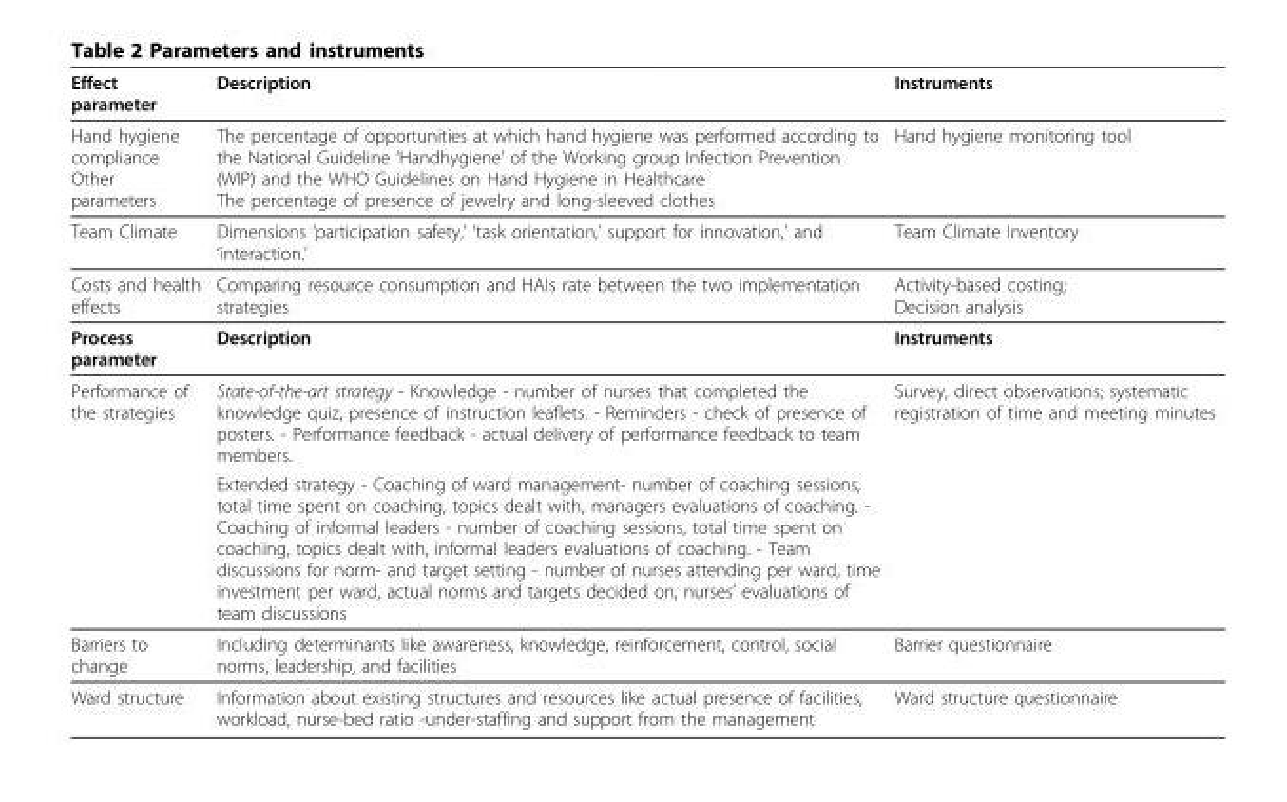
<table><thead><tr><td>Effect parameter</td><td>Description</td><td>Instruments</td></tr></thead><tbody><tr><td>Hand hygiene compliance Other parameters</td><td>The percentage of opportunities at which hand hygiene was performed according to the National Guideline ‘Handhygiene’ of the Working group Infection Prevention (WIP) and the WHO Guidelines on Hand Hygiene in Healthcare The percentage of presence of jewelry and long-sleeved clothes</td><td>Hand hygiene monitoring tool</td></tr><tr><td>Team Climate</td><td>Dimensions ‘participation safety,’ ‘task orientation,’ support for innovation,’ and ‘interaction.’</td><td>Team Climate Inventory</td></tr><tr><td>Costs and health effects</td><td>Comparing resource consumption and HAIs rate between the two implementation strategies</td><td>Activity-based costing; Decision analysis</td></tr><tr><td>Process parameter</td><td>Description</td><td>Instruments</td></tr><tr><td rowspan="2">Performance of the strategies</td><td>State-of-the-art strategy - Knowledge - number of nurses that completed the knowledge quiz, presence of instruction leaflets. - Reminders - check of presence of posters. - Performance feedback - actual delivery of performance feedback to team members.</td><td>Survey, direct observations; systematic registration of time and meeting minutes</td></tr><tr><td>Extended strategy - Coaching of ward management- number of coaching sessions, total time spent on coaching, topics dealt with, managers evaluations of coaching. - Coaching of informal leaders - number of coaching sessions, total time spent on coaching, topics dealt with, informal leaders evaluations of coaching. - Team discussions for norm- and target setting - number of nurses attending per ward, time investment per ward, actual norms and targets decided on, nurses’ evaluations of team discussions</td><td></td></tr><tr><td>Barriers to change</td><td>Including determinants like awareness, knowledge, reinforcement, control, social norms, leadership, and facilities</td><td>Barrier questionnaire</td></tr><tr><td>Ward structure</td><td>Information about existing structures and resources like actual presence of facilities, workload, nurse-bed ratio -under-staffing and support from the management</td><td>Ward structure questionnaire</td></tr></tbody></table>